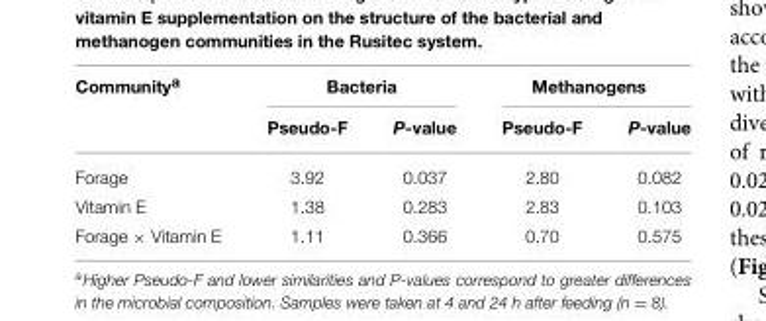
<table><thead><tr><td rowspan="2">Community<sup>a</sup></td><td colspan="2">Bacteria</td><td colspan="2">Methanogens</td></tr><tr><td>Pseudo-F</td><td>P-value</td><td>Pseudo-F</td><td>P-value</td></tr></thead><tbody><tr><td>Forage</td><td>3.92</td><td>0.037</td><td>2.80</td><td>0.082</td></tr><tr><td>Vitamin E</td><td>1.38</td><td>0.283</td><td>2.83</td><td>0.103</td></tr><tr><td>Forage × Vitamin E</td><td>1.11</td><td>0.366</td><td>0.70</td><td>0.575</td></tr></tbody></table>